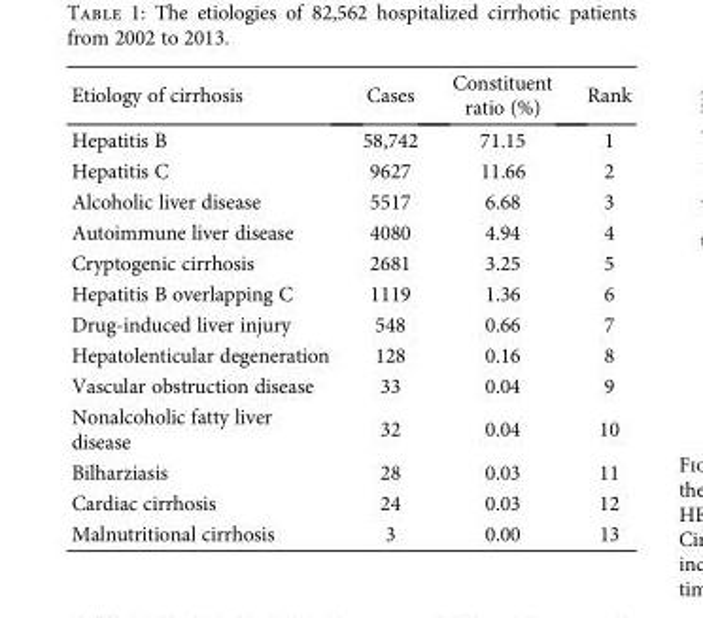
<table><thead><tr><td>Etiology of cirrhosis</td><td>Cases</td><td>Constituent ratio (%)</td><td>Rank</td></tr></thead><tbody><tr><td>Hepatitis B</td><td>58,742</td><td>71.15</td><td>1</td></tr><tr><td>Hepatitis C</td><td>9627</td><td>11.66</td><td>2</td></tr><tr><td>Alcoholic liver disease</td><td>5517</td><td>6.68</td><td>3</td></tr><tr><td>Autoimmune liver disease</td><td>4080</td><td>4.94</td><td>4</td></tr><tr><td>Cryptogenic cirrhosis</td><td>2681</td><td>3.25</td><td>5</td></tr><tr><td>Hepatitis B overlapping C</td><td>1119</td><td>1.36</td><td>6</td></tr><tr><td>Drug-induced liver injury</td><td>548</td><td>0.66</td><td>7</td></tr><tr><td>Hepatolenticular degeneration</td><td>128</td><td>0.16</td><td>8</td></tr><tr><td>Vascular obstruction disease</td><td>33</td><td>0.04</td><td>9</td></tr><tr><td>Nonalcoholic fatty liver disease</td><td>32</td><td>0.04</td><td>10</td></tr><tr><td>Bilharziasis</td><td>28</td><td>0.03</td><td>11</td></tr><tr><td>Cardiac cirrhosis</td><td>24</td><td>0.03</td><td>12</td></tr><tr><td>Malnutritional cirrhosis</td><td>3</td><td>0.00</td><td>13</td></tr></tbody></table>